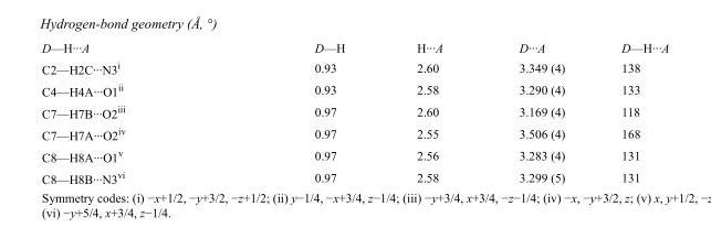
<table><tbody><tr><td>D—H···A</td><td>D—H</td><td>H···A</td><td>D···A</td><td>D—H···A</td></tr><tr><td>C2—H2C···N3<sup>i</sup></td><td>0.93</td><td>2.60</td><td>3.349 (4)</td><td>138</td></tr><tr><td>C4—H4A···O1<sup>ii</sup></td><td>0.93</td><td>2.58</td><td>3.290 (4)</td><td>133</td></tr><tr><td>C7—H7B···O2<sup>iii</sup></td><td>0.97</td><td>2.60</td><td>3.169 (4)</td><td>118</td></tr><tr><td>C7—H7A···O2<sup>iv</sup></td><td>0.97</td><td>2.55</td><td>3.506 (4)</td><td>168</td></tr><tr><td>C8—H8A···O1<sup>v</sup></td><td>0.97</td><td>2.56</td><td>3.283 (4)</td><td>131</td></tr><tr><td>C8—H8B···N3<sup>vi</sup></td><td>0.97</td><td>2.58</td><td>3.299 (5)</td><td>131</td></tr></tbody></table>